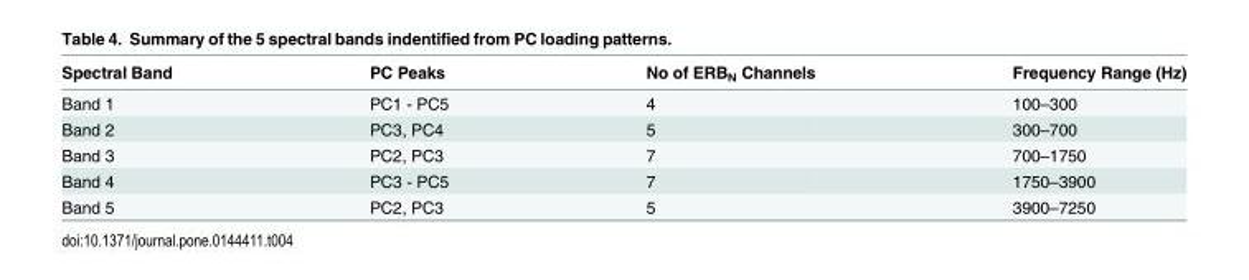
<table><thead><tr><td>Spectral Band</td><td>PC Peaks</td><td>No of ERB<sub>N</sub> Channels</td><td>Frequency Range (Hz)</td></tr></thead><tbody><tr><td>Band 1</td><td>PC1 - PC5</td><td>4</td><td>100–300</td></tr><tr><td>Band 2</td><td>PC3, PC4</td><td>5</td><td>300–700</td></tr><tr><td>Band 3</td><td>PC2, PC3</td><td>7</td><td>700–1750</td></tr><tr><td>Band 4</td><td>PC3 - PC5</td><td>7</td><td>1750–3900</td></tr><tr><td>Band 5</td><td>PC2, PC3</td><td>5</td><td>3900–7250</td></tr></tbody></table>